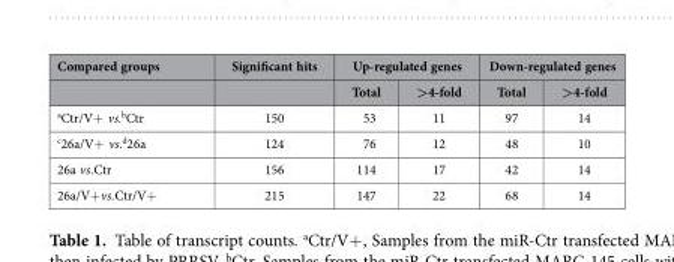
<table><thead><tr><td rowspan="2">Compared groups</td><td rowspan="2">Significant hits</td><td colspan="2">Up-regulated genes</td><td colspan="2">Down-regulated genes</td></tr><tr><td>Total</td><td>&gt;4-fold</td><td>Total</td><td>&gt;4-fold</td></tr></thead><tbody><tr><td>aCtr/V+ vs.<sup>b</sup>Ctr</td><td>150</td><td>53</td><td>11</td><td>97</td><td>14</td></tr><tr><td>c26a/V+ vs.<sup>d</sup>26a</td><td>124</td><td>76</td><td>12</td><td>48</td><td>10</td></tr><tr><td>26a vs.Ctr</td><td>156</td><td>114</td><td>17</td><td>42</td><td>14</td></tr><tr><td>26a/V+ vs.Ctr/V+</td><td>215</td><td>147</td><td>22</td><td>68</td><td>14</td></tr></tbody></table>